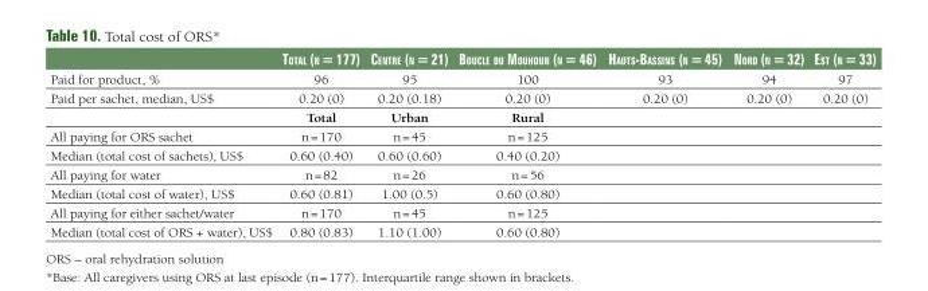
<table><thead><tr><td></td><td>total (n = 177)</td><td>centre (n = 21)</td><td>boucle du mouhoun (n = 46)</td><td>hautS-baSSinS (n = 45)</td><td>nord (n = 32)</td><td>eSt (n = 33)</td></tr></thead><tbody><tr><td>Paid for product, %</td><td>96</td><td>95</td><td>100</td><td>93</td><td>94</td><td>97</td></tr><tr><td rowspan="2">Paid per sachet, median, US$</td><td>0.20 (0)</td><td>0.20 (0.18)</td><td>0.20 (0)</td><td>0.20 (0)</td><td>0.20 (0)</td><td>0.20 (0)</td></tr><tr><td>Total</td><td>Urban</td><td>Rural</td><td></td><td></td><td></td></tr><tr><td>All paying for ORS sachet</td><td>n = 170</td><td>n = 45</td><td>n = 125</td><td></td><td></td><td></td></tr><tr><td>Median (total cost of sachets), US$</td><td>0.60 (0.40)</td><td>0.60 (0.60)</td><td>0.40 (0.20)</td><td></td><td></td><td></td></tr><tr><td>All paying for water</td><td>n = 82</td><td>n = 26</td><td>n = 56</td><td></td><td></td><td></td></tr><tr><td>Median (total cost of water), US$</td><td>0.60 (0.81)</td><td>1.00 (0.5)</td><td>0.60 (0.80)</td><td></td><td></td><td></td></tr><tr><td>All paying for either sachet/water</td><td>n = 170</td><td>n = 45</td><td>n = 125</td><td></td><td></td><td></td></tr><tr><td>Median (total cost of ORS + water), US$</td><td>0.80 (0.83)</td><td>1.10 (1.00)</td><td>0.60 (0.80)</td><td></td><td></td><td></td></tr></tbody></table>